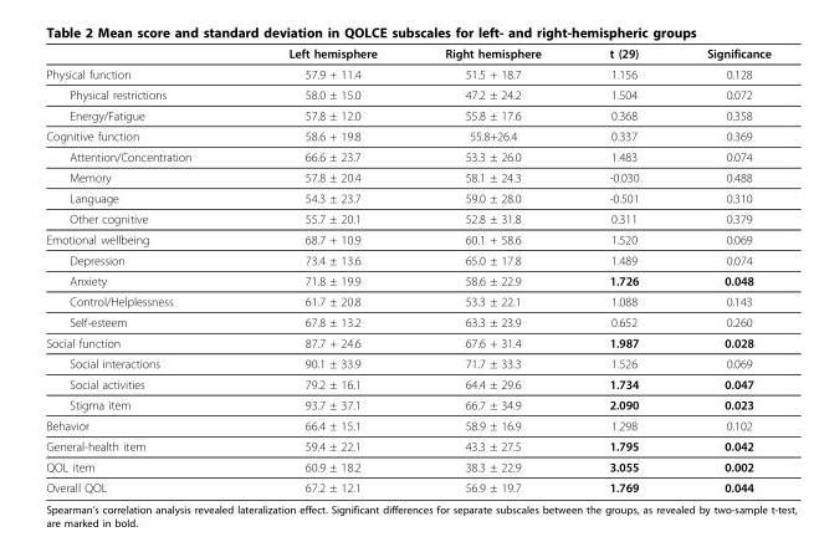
<table><thead><tr><td></td><td>Left hemisphere</td><td>Right hemisphere</td><td>t (29)</td><td>Significance</td></tr></thead><tbody><tr><td>Physical function</td><td>57.9 + 11.4</td><td>51.5 + 18.7</td><td>1.156</td><td>0.128</td></tr><tr><td>Physical restrictions</td><td>58.0 ± 15.0</td><td>47.2 ± 24.2</td><td>1.504</td><td>0.072</td></tr><tr><td>Energy/Fatigue</td><td>57.8 ± 12.0</td><td>55.8 ± 17.6</td><td>0.368</td><td>0.358</td></tr><tr><td>Cognitive function</td><td>58.6 + 19.8</td><td>55.8+26.4</td><td>0.337</td><td>0.369</td></tr><tr><td>Attention/Concentration</td><td>66.6 ± 23.7</td><td>53.3 ± 26.0</td><td>1.483</td><td>0.074</td></tr><tr><td>Memory</td><td>57.8 ± 20.4</td><td>58.1 ± 24.3</td><td>-0.030</td><td>0.488</td></tr><tr><td>Language</td><td>54.3 ± 23.7</td><td>59.0 ± 28.0</td><td>-0.501</td><td>0.310</td></tr><tr><td>Other cognitive</td><td>55.7 ± 20.1</td><td>52.8 ± 31.8</td><td>0.311</td><td>0.379</td></tr><tr><td>Emotional wellbeing</td><td>68.7 + 10.9</td><td>60.1 + 58.6</td><td>1.520</td><td>0.069</td></tr><tr><td>Depression</td><td>73.4 ± 13.6</td><td>65.0 ± 17.8</td><td>1.489</td><td>0.074</td></tr><tr><td>Anxiety</td><td>71.8 ± 19.9</td><td>58.6 ± 22.9</td><td>1.726</td><td>0.048</td></tr><tr><td>Control/Helplessness</td><td>61.7 ± 20.8</td><td>53.3 ± 22.1</td><td>1.088</td><td>0.143</td></tr><tr><td>Self-esteem</td><td>67.8 ± 13.2</td><td>63.3 ± 23.9</td><td>0.652</td><td>0.260</td></tr><tr><td>Social function</td><td>87.7 + 24.6</td><td>67.6 + 31.4</td><td>1.987</td><td>0.028</td></tr><tr><td>Social interactions</td><td>90.1 ± 33.9</td><td>71.7 ± 33.3</td><td>1.526</td><td>0.069</td></tr><tr><td>Social activities</td><td>79.2 ± 16.1</td><td>64.4 ± 29.6</td><td>1.734</td><td>0.047</td></tr><tr><td>Stigma item</td><td>93.7 ± 37.1</td><td>66.7 ± 34.9</td><td>2.090</td><td>0.023</td></tr><tr><td>Behavior</td><td>66.4 ± 15.1</td><td>58.9 ± 16.9</td><td>1.298</td><td>0.102</td></tr><tr><td>General-health item</td><td>59.4 ± 22.1</td><td>43.3 ± 27.5</td><td>1.795</td><td>0.042</td></tr><tr><td>QOL item</td><td>60.9 ± 18.2</td><td>38.3 ± 22.9</td><td>3.055</td><td>0.002</td></tr><tr><td>Overall QOL</td><td>67.2 ± 12.1</td><td>56.9 ± 19.7</td><td>1.769</td><td>0.044</td></tr></tbody></table>